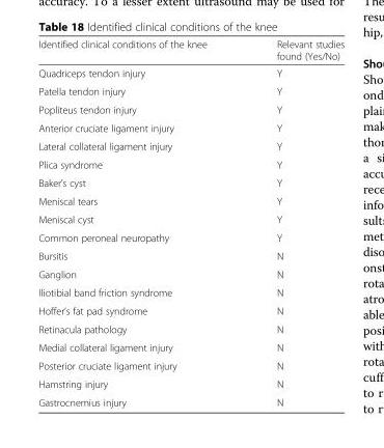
<table><thead><tr><td>Identified clinical conditions of the knee</td><td>Relevant studies found (Yes/No)</td></tr></thead><tbody><tr><td>Quadriceps tendon injury</td><td>Y</td></tr><tr><td>Patella tendon injury</td><td>Y</td></tr><tr><td>Popliteus tendon injury</td><td>Y</td></tr><tr><td>Anterior cruciate ligament injury</td><td>Y</td></tr><tr><td>Lateral collateral ligament injury</td><td>Y</td></tr><tr><td>Plica syndrome</td><td>Y</td></tr><tr><td>Baker’s cyst</td><td>Y</td></tr><tr><td>Meniscal tears</td><td>Y</td></tr><tr><td>Meniscal cyst</td><td>Y</td></tr><tr><td>Common peroneal neuropathy</td><td>Y</td></tr><tr><td>Bursitis</td><td>N</td></tr><tr><td>Ganglion</td><td>N</td></tr><tr><td>Iliotibial band friction syndrome</td><td>N</td></tr><tr><td>Hoffer’s fat pad syndrome</td><td>N</td></tr><tr><td>Retinacula pathology</td><td>N</td></tr><tr><td>Medial collateral ligament injury</td><td>N</td></tr><tr><td>Posterior cruciate ligament injury</td><td>N</td></tr><tr><td>Hamstring injury</td><td>N</td></tr><tr><td>Gastrocnemius injury</td><td>N</td></tr></tbody></table>